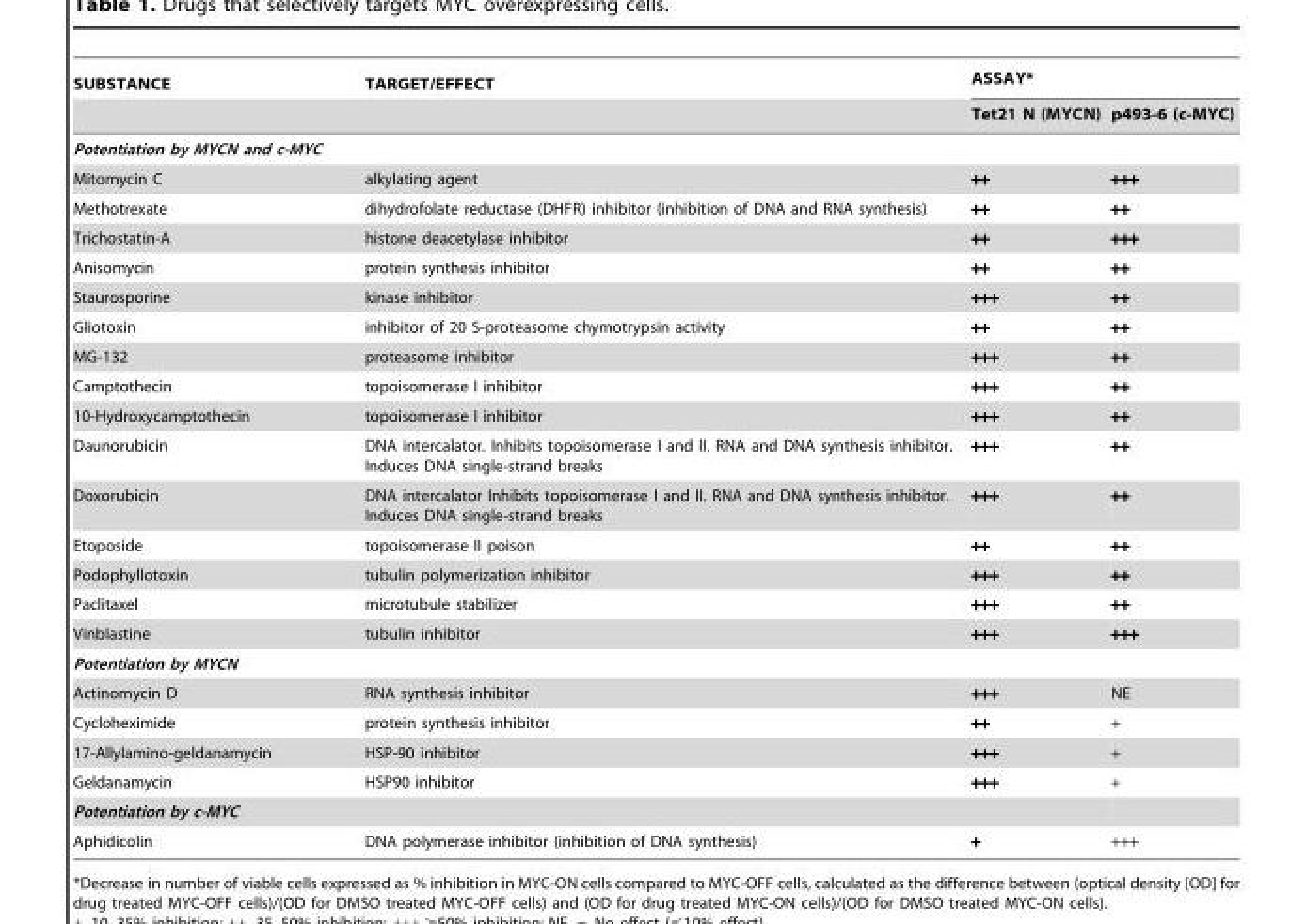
<table><thead><tr><td rowspan="2">SUBSTANCE</td><td rowspan="2">TARGET/EFFECT</td><td colspan="2">ASSAY*</td></tr><tr><td>Tet21 N (MYCN)</td><td>p493-6 (c-MYC)</td></tr></thead><tbody><tr><td colspan="4">Potentiation by MYCN and c-MYC</td></tr><tr><td>Mitomycin C</td><td>alkylating agent</td><td>++</td><td>+++</td></tr><tr><td>Methotrexate</td><td>dihydrofolate reductase (DHFR) inhibitor (inhibition of DNA and RNA synthesis)</td><td>++</td><td>++</td></tr><tr><td>Trichostatin-A</td><td>histone deacetylase inhibitor</td><td>++</td><td>+++</td></tr><tr><td>Anisomycin</td><td>protein synthesis inhibitor</td><td>++</td><td>++</td></tr><tr><td>Staurosporine</td><td>kinase inhibitor</td><td>+++</td><td>++</td></tr><tr><td>Gliotoxin</td><td>inhibitor of 20 S-proteasome chymotrypsin activity</td><td>++</td><td>++</td></tr><tr><td>MG-132</td><td>proteasome inhibitor</td><td>+++</td><td>++</td></tr><tr><td>Camptothecin</td><td>topoisomerase I inhibitor</td><td>+++</td><td>++</td></tr><tr><td>10-Hydroxycamptothecin</td><td>topoisomerase I inhibitor</td><td>+++</td><td>++</td></tr><tr><td>Daunorubicin</td><td>DNA intercalator. Inhibits topoisomerase I and II. RNA and DNA synthesis inhibitor. Induces DNA single-strand breaks</td><td>+++</td><td>++</td></tr><tr><td>Doxorubicin</td><td>DNA intercalator Inhibits topoisomerase I and II. RNA and DNA synthesis inhibitor. Induces DNA single-strand breaks</td><td>+++</td><td>++</td></tr><tr><td>Etoposide</td><td>topoisomerase II poison</td><td>++</td><td>++</td></tr><tr><td>Podophyllotoxin</td><td>tubulin polymerization inhibitor</td><td>+++</td><td>++</td></tr><tr><td>Paclitaxel</td><td>microtubule stabilizer</td><td>+++</td><td>++</td></tr><tr><td>Vinblastine</td><td>tubulin inhibitor</td><td>+++</td><td>+++</td></tr><tr><td colspan="4">Potentiation by MYCN</td></tr><tr><td>Actinomycin D</td><td>RNA synthesis inhibitor</td><td>+++</td><td>NE</td></tr><tr><td>Cycloheximide</td><td>protein synthesis inhibitor</td><td>++</td><td>+</td></tr><tr><td>17-Allylamino-geldanamycin</td><td>HSP-90 inhibitor</td><td>+++</td><td>+</td></tr><tr><td>Geldanamycin</td><td>HSP90 inhibitor</td><td>+++</td><td>+</td></tr><tr><td colspan="4">Potentiation by c-MYC</td></tr><tr><td>Aphidicolin</td><td>DNA polymerase inhibitor (inhibition of DNA synthesis)</td><td>+</td><td>+++</td></tr></tbody></table>